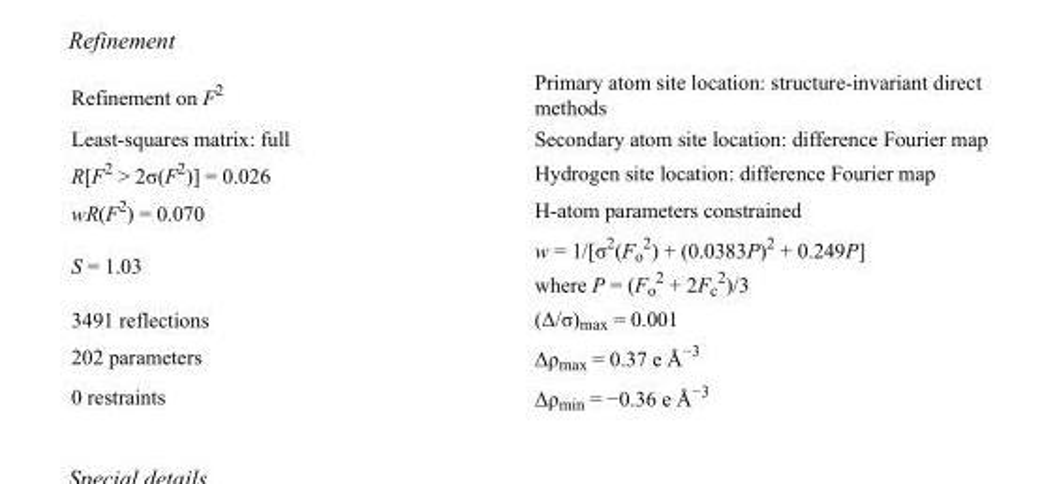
<table><tbody><tr><td>Refinement on F<sup>2</sup></td><td>Primary atom site location: structure-invariant direct methods</td></tr><tr><td>Least-squares matrix: full</td><td>Secondary atom site location: difference Fourier map</td></tr><tr><td>R[F<sup>2</sup> &gt; 2σ(F<sup>2</sup>)] = 0.026</td><td>Hydrogen site location: difference Fourier map</td></tr><tr><td>wR(F<sup>2</sup>) = 0.070</td><td>H-atom parameters constrained</td></tr><tr><td>S = 1.03</td><td>w = 1/[σ<sup>2</sup>(F<sub>o</sub> <sup>2</sup>) + (0.0383P)<sup>2</sup> + 0.249P] where P = (F<sub>o</sub> <sup>2</sup> + 2F<sub>c</sub> <sup>2</sup>)/3</td></tr><tr><td>3491 reflections</td><td>(Δ/σ)<sub>max</sub> = 0.001</td></tr><tr><td>202 parameters</td><td>Δρ<sub>max</sub> = 0.37 e Å<sup>−3</sup></td></tr><tr><td>0 restraints</td><td>Δρ<sub>min</sub> = −0.36 e Å<sup>−3</sup></td></tr></tbody></table>